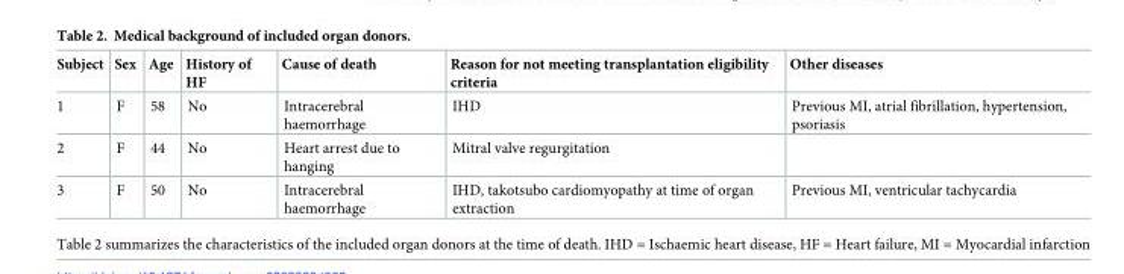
<table><thead><tr><td>Subject</td><td>Sex</td><td>Age</td><td>History of HF</td><td>Cause of death</td><td>Reason for not meeting transplantation eligibility criteria</td><td>Other diseases</td></tr></thead><tbody><tr><td>1</td><td>F</td><td>58</td><td>No</td><td>Intracerebral haemorrhage</td><td>IHD</td><td>Previous MI, atrial fibrillation, hypertension, psoriasis</td></tr><tr><td>2</td><td>F</td><td>44</td><td>No</td><td>Heart arrest due to hanging</td><td>Mitral valve regurgitation</td><td></td></tr><tr><td>3</td><td>F</td><td>50</td><td>No</td><td>Intracerebral haemorrhage</td><td>IHD, takotsubo cardiomyopathy at time of organ extraction</td><td>Previous MI, ventricular tachycardia</td></tr></tbody></table>